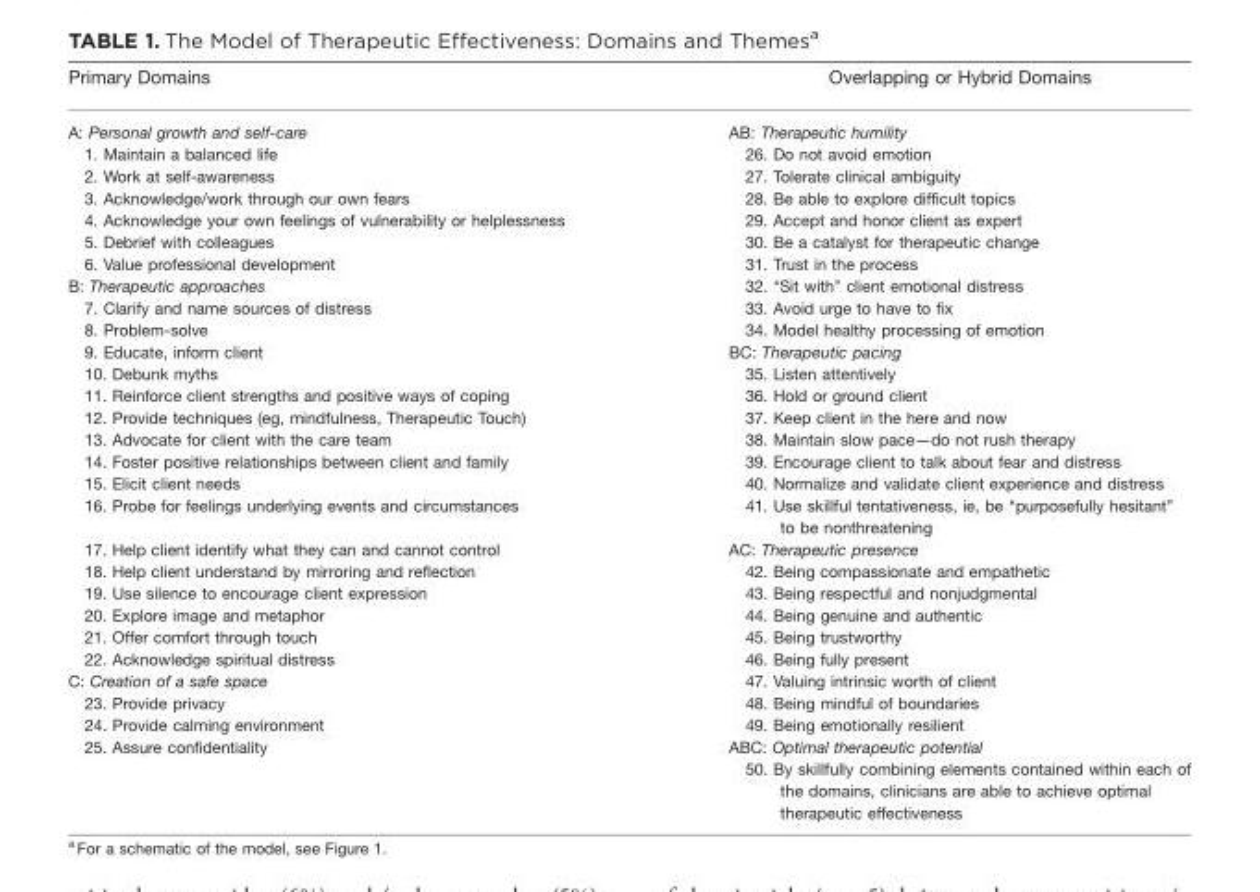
<table><thead><tr><td>Primary Domains</td><td>Overlapping or Hybrid Domains</td></tr></thead><tbody><tr><td>A: Personal growth and self-care</td><td>AB: Therapeutic humility</td></tr><tr><td>1. Maintain a balanced life</td><td>26. Do not avoid emotion</td></tr><tr><td>2. Work at self-awareness</td><td>27. Tolerate clinical ambiguity</td></tr><tr><td>3. Acknowledge/work through our own fears</td><td>28. Be able to explore difficult topics</td></tr><tr><td>4. Acknowledge your own feelings of vulnerability or helplessness</td><td>29. Accept and honor client as expert</td></tr><tr><td>5. Debrief with colleagues</td><td>30. Be a catalyst for therapeutic change</td></tr><tr><td>6. Value professional development</td><td>31. Trust in the process</td></tr><tr><td>B: Therapeutic approaches</td><td>32. ‘‘Sit with’’ client emotional distress</td></tr><tr><td>7. Clarify and name sources of distress</td><td>33. Avoid urge to have to fix</td></tr><tr><td>8. Problem-solve</td><td>34. Model healthy processing of emotion</td></tr><tr><td>9. Educate, inform client</td><td>BC: Therapeutic pacing</td></tr><tr><td>10. Debunk myths</td><td>35. Listen attentively</td></tr><tr><td>11. Reinforce client strengths and positive ways of coping</td><td>36. Hold or ground client</td></tr><tr><td>12. Provide techniques (eg, mindfulness, Therapeutic Touch)</td><td>37. Keep client in the here and now</td></tr><tr><td>13. Advocate for client with the care team</td><td>38. Maintain slow pace—do not rush therapy</td></tr><tr><td>14. Foster positive relationships between client and family</td><td>39. Encourage client to talk about fear and distress</td></tr><tr><td>15. Elicit client needs</td><td>40. Normalize and validate client experience and distress</td></tr><tr><td>16. Probe for feelings underlying events and circumstances</td><td>41. Use skillful tentativeness, ie, be ‘‘purposefully hesitant’’ to be nonthreatening</td></tr><tr><td>17. Help client identify what they can and cannot control</td><td>AC: Therapeutic presence</td></tr><tr><td>18. Help client understand by mirroring and reflection</td><td>42. Being compassionate and empathetic</td></tr><tr><td>19. Use silence to encourage client expression</td><td>43. Being respectful and nonjudgmental</td></tr><tr><td>20. Explore image and metaphor</td><td>44. Being genuine and authentic</td></tr><tr><td>21. Offer comfort through touch</td><td>45. Being trustworthy</td></tr><tr><td>22. Acknowledge spiritual distress</td><td>46. Being fully present</td></tr><tr><td>C: Creation of a safe space</td><td>47. Valuing intrinsic worth of client</td></tr><tr><td>23. Provide privacy</td><td>48. Being mindful of boundaries</td></tr><tr><td>24. Provide calming environment</td><td>49. Being emotionally resilient</td></tr><tr><td rowspan="2">25. Assure confidentiality</td><td>ABC: Optimal therapeutic potential</td></tr><tr><td>50. By skillfully combining elements contained within each of the domains, clinicians are able to achieve optimal therapeutic effectiveness</td></tr></tbody></table>